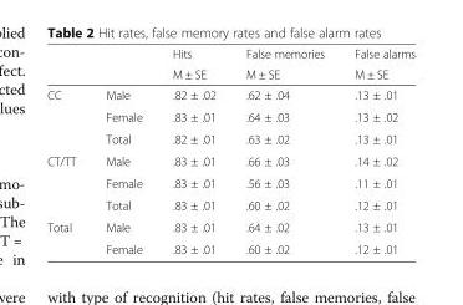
<table><thead><tr><td rowspan="2"></td><td rowspan="2"></td><td rowspan="2">Hits M ± SE</td><td rowspan="2">False memories M ± SE</td><td rowspan="2">False alarms M ± SE</td></tr><tr></tr></thead><tbody><tr><td rowspan="3">CC</td><td>Male</td><td>.82 ± .02</td><td>.62 ± .04</td><td>.13 ± .01</td></tr><tr><td>Female</td><td>.83 ± .01</td><td>.64 ± .03</td><td>.13 ± .02</td></tr><tr><td>Total</td><td>.82 ± .01</td><td>.63 ± .02</td><td>.13 ± .01</td></tr><tr><td rowspan="3">CT/TT</td><td>Male</td><td>.83 ± .01</td><td>.66 ± .03</td><td>.14 ± .02</td></tr><tr><td>Female</td><td>.83 ± .01</td><td>.56 ± .03</td><td>.11 ± .01</td></tr><tr><td>Total</td><td>.83 ± .01</td><td>.60 ± .02</td><td>.12 ± .01</td></tr><tr><td rowspan="2">Total</td><td>Male</td><td>.83 ± .01</td><td>.64 ± .02</td><td>.13 ± .01</td></tr><tr><td>Female</td><td>.83 ± .01</td><td>.60 ± .02</td><td>.12 ± .01</td></tr></tbody></table>